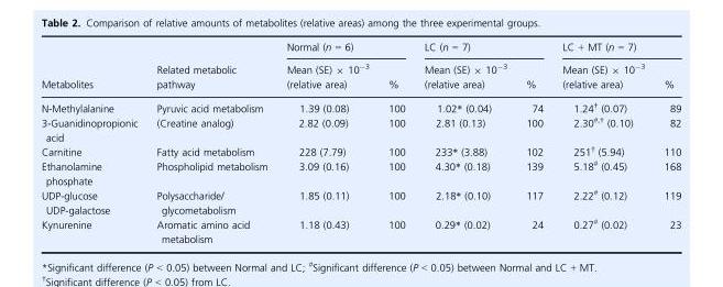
<table><thead><tr><td rowspan="2">Metabolites</td><td rowspan="2">Related metabolic pathway</td><td colspan="2">Normal (n = 6)</td><td colspan="2">LC (n = 7)</td><td colspan="2">LC + MT (n = 7)</td></tr><tr><td>Mean (SE) × 10<sup>−3</sup> (relative area)</td><td>%</td><td>Mean (SE) × 10<sup>−3</sup> (relative area)</td><td>%</td><td>Mean (SE) × 10<sup>−3</sup> (relative area)</td><td>%</td></tr></thead><tbody><tr><td>N-Methylalanine</td><td>Pyruvic acid metabolism</td><td>1.39 (0.08)</td><td>100</td><td>1.02* (0.04)</td><td>74</td><td>1.24† (0.07)</td><td>89</td></tr><tr><td>3-Guanidinopropionic acid</td><td>(Creatine analog)</td><td>2.82 (0.09)</td><td>100</td><td>2.81 (0.13)</td><td>100</td><td>2.30#<sup>,</sup>† (0.10)</td><td>82</td></tr><tr><td>Carnitine</td><td>Fatty acid metabolism</td><td>228 (7.79)</td><td>100</td><td>233* (3.88)</td><td>102</td><td>251† (5.94)</td><td>110</td></tr><tr><td>Ethanolamine phosphate</td><td>Phospholipid metabolism</td><td>3.09 (0.16)</td><td>100</td><td>4.30* (0.18)</td><td>139</td><td>5.18# (0.45)</td><td>168</td></tr><tr><td>UDP-glucose UDP-galactose</td><td>Polysaccharide/ glycometabolism</td><td>1.85 (0.11)</td><td>100</td><td>2.18* (0.10)</td><td>117</td><td>2.22# (0.12)</td><td>119</td></tr><tr><td>Kynurenine</td><td>Aromatic amino acid metabolism</td><td>1.18 (0.43)</td><td>100</td><td>0.29* (0.02)</td><td>24</td><td>0.27# (0.02)</td><td>23</td></tr></tbody></table>